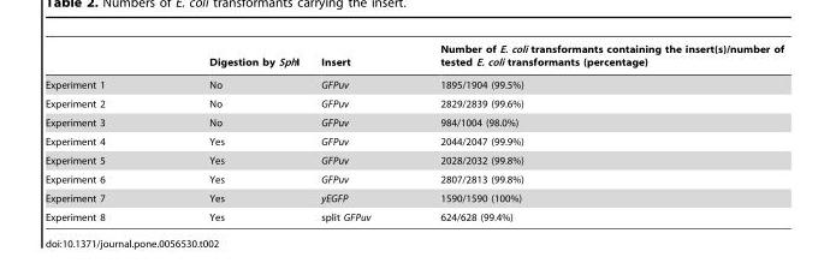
<table><thead><tr><td></td><td>Digestion by SphI</td><td>Insert</td><td>Number of E. coli transformants containing the insert(s)/number of tested E. coli transformants (percentage)</td></tr></thead><tbody><tr><td>Experiment 1</td><td>No</td><td>GFPuv</td><td>1895/1904 (99.5%)</td></tr><tr><td>Experiment 2</td><td>No</td><td>GFPuv</td><td>2829/2839 (99.6%)</td></tr><tr><td>Experiment 3</td><td>No</td><td>GFPuv</td><td>984/1004 (98.0%)</td></tr><tr><td>Experiment 4</td><td>Yes</td><td>GFPuv</td><td>2044/2047 (99.9%)</td></tr><tr><td>Experiment 5</td><td>Yes</td><td>GFPuv</td><td>2028/2032 (99.8%)</td></tr><tr><td>Experiment 6</td><td>Yes</td><td>GFPuv</td><td>2807/2813 (99.8%)</td></tr><tr><td>Experiment 7</td><td>Yes</td><td>yEGFP</td><td>1590/1590 (100%)</td></tr><tr><td>Experiment 8</td><td>Yes</td><td>split GFPuv</td><td>624/628 (99.4%)</td></tr></tbody></table>